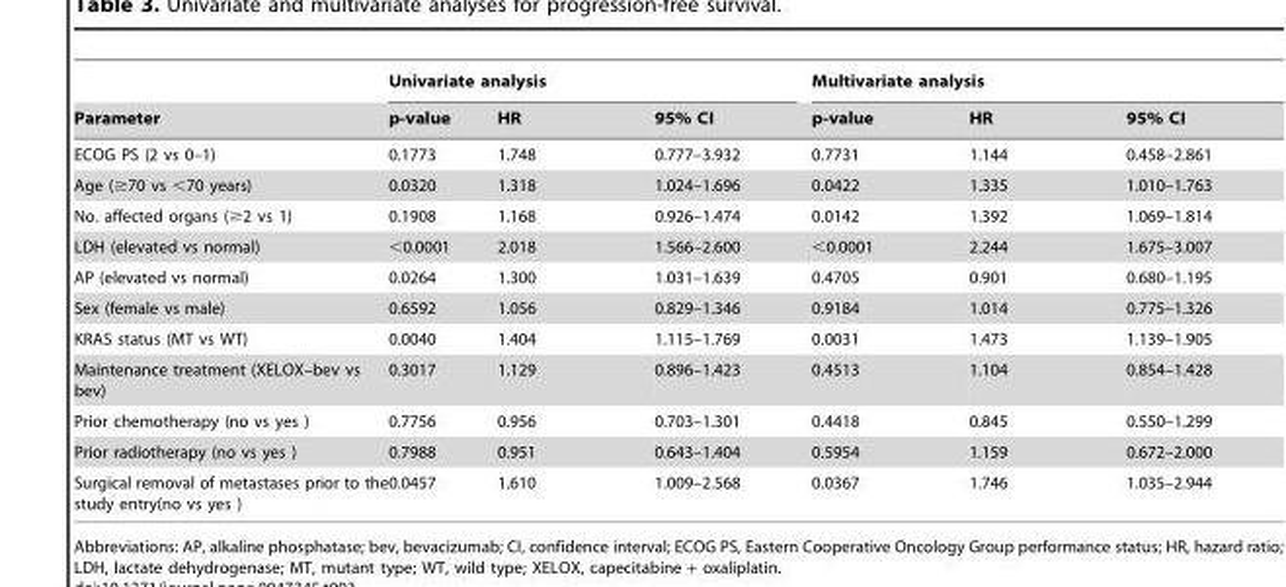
<table><thead><tr><td rowspan="2">Parameter</td><td colspan="3">Univariate analysis</td><td colspan="3">Multivariate analysis</td></tr><tr><td>p-value</td><td>HR</td><td>95% CI</td><td>p-value</td><td>HR</td><td>95% CI</td></tr></thead><tbody><tr><td>ECOG PS (2 vs 0–1)</td><td>0.1773</td><td>1.748</td><td>0.777–3.932</td><td>0.7731</td><td>1.144</td><td>0.458–2.861</td></tr><tr><td>Age (≥70 vs &lt;70 years)</td><td>0.0320</td><td>1.318</td><td>1.024–1.696</td><td>0.0422</td><td>1.335</td><td>1.010–1.763</td></tr><tr><td>No. affected organs (≥2 vs 1)</td><td>0.1908</td><td>1.168</td><td>0.926–1.474</td><td>0.0142</td><td>1.392</td><td>1.069–1.814</td></tr><tr><td>LDH (elevated vs normal)</td><td>&lt;0.0001</td><td>2.018</td><td>1.566–2.600</td><td>&lt;0.0001</td><td>2.244</td><td>1.675–3.007</td></tr><tr><td>AP (elevated vs normal)</td><td>0.0264</td><td>1.300</td><td>1.031–1.639</td><td>0.4705</td><td>0.901</td><td>0.680–1.195</td></tr><tr><td>Sex (female vs male)</td><td>0.6592</td><td>1.056</td><td>0.829–1.346</td><td>0.9184</td><td>1.014</td><td>0.775–1.326</td></tr><tr><td>KRAS status (MT vs WT)</td><td>0.0040</td><td>1.404</td><td>1.115–1.769</td><td>0.0031</td><td>1.473</td><td>1.139–1.905</td></tr><tr><td>Maintenance treatment (XELOX–bev vs bev)</td><td>0.3017</td><td>1.129</td><td>0.896–1.423</td><td>0.4513</td><td>1.104</td><td>0.854–1.428</td></tr><tr><td>Prior chemotherapy (no vs yes )</td><td>0.7756</td><td>0.956</td><td>0.703–1.301</td><td>0.4418</td><td>0.845</td><td>0.550–1.299</td></tr><tr><td>Prior radiotherapy (no vs yes )</td><td>0.7988</td><td>0.951</td><td>0.643–1.404</td><td>0.5954</td><td>1.159</td><td>0.672–2.000</td></tr><tr><td>Surgical removal of metastases prior to the study entry(no vs yes )</td><td>0.0457</td><td>1.610</td><td>1.009–2.568</td><td>0.0367</td><td>1.746</td><td>1.035–2.944</td></tr></tbody></table>